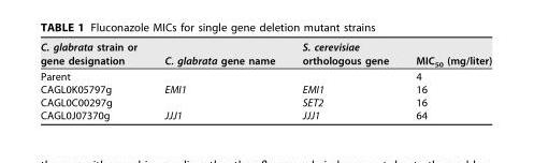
<table><thead><tr><td>C. glabrata strain or gene designation</td><td>C. glabrata gene name</td><td>S. cerevisiae orthologous gene</td><td>MIC<sub>50</sub> (mg/liter)</td></tr></thead><tbody><tr><td>Parent</td><td></td><td></td><td>4</td></tr><tr><td>CAGL0K05797g</td><td>EMI1</td><td>EMI1</td><td>16</td></tr><tr><td>CAGL0C00297g</td><td></td><td>SET2</td><td>16</td></tr><tr><td>CAGL0J07370g</td><td>JJJ1</td><td>JJJ1</td><td>64</td></tr></tbody></table>